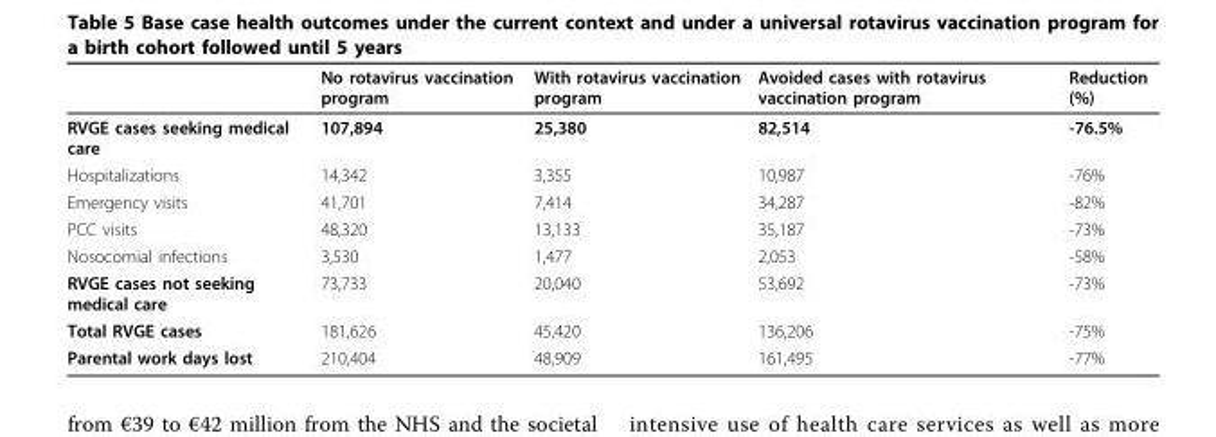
<table><thead><tr><td></td><td>No rotavirus vaccination program</td><td>With rotavirus vaccination program</td><td>Avoided cases with rotavirus vaccination program</td><td>Reduction (%)</td></tr></thead><tbody><tr><td>RVGE cases seeking medical care</td><td>107,894</td><td>25,380</td><td>82,514</td><td>-76.5%</td></tr><tr><td>Hospitalizations</td><td>14,342</td><td>3,355</td><td>10,987</td><td>-76%</td></tr><tr><td>Emergency visits</td><td>41,701</td><td>7,414</td><td>34,287</td><td>-82%</td></tr><tr><td>PCC visits</td><td>48,320</td><td>13,133</td><td>35,187</td><td>-73%</td></tr><tr><td>Nosocomial infections</td><td>3,530</td><td>1,477</td><td>2,053</td><td>-58%</td></tr><tr><td>RVGE cases not seeking medical care</td><td>73,733</td><td>20,040</td><td>53,692</td><td>-73%</td></tr><tr><td>Total RVGE cases</td><td>181,626</td><td>45,420</td><td>136,206</td><td>-75%</td></tr><tr><td>Parental work days lost</td><td>210,404</td><td>48,909</td><td>161,495</td><td>-77%</td></tr></tbody></table>